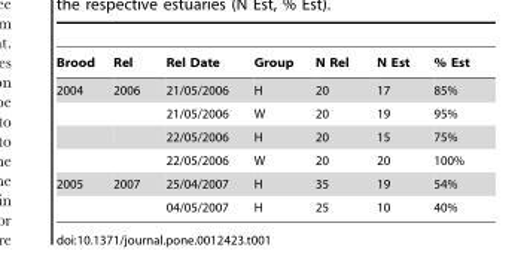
<table><thead><tr><td>Brood</td><td>Rel</td><td>Rel Date</td><td>Group</td><td>N Rel</td><td>N Est</td><td>% Est</td></tr></thead><tbody><tr><td rowspan="4">2004</td><td>2006</td><td>21/05/2006</td><td>H</td><td>20</td><td>17</td><td>85%</td></tr><tr><td></td><td>21/05/2006</td><td>W</td><td>20</td><td>19</td><td>95%</td></tr><tr><td></td><td>22/05/2006</td><td>H</td><td>20</td><td>15</td><td>75%</td></tr><tr><td></td><td>22/05/2006</td><td>W</td><td>20</td><td>20</td><td>100%</td></tr><tr><td rowspan="2">2005</td><td>2007</td><td>25/04/2007</td><td>H</td><td>35</td><td>19</td><td>54%</td></tr><tr><td></td><td>04/05/2007</td><td>H</td><td>25</td><td>10</td><td>40%</td></tr></tbody></table>